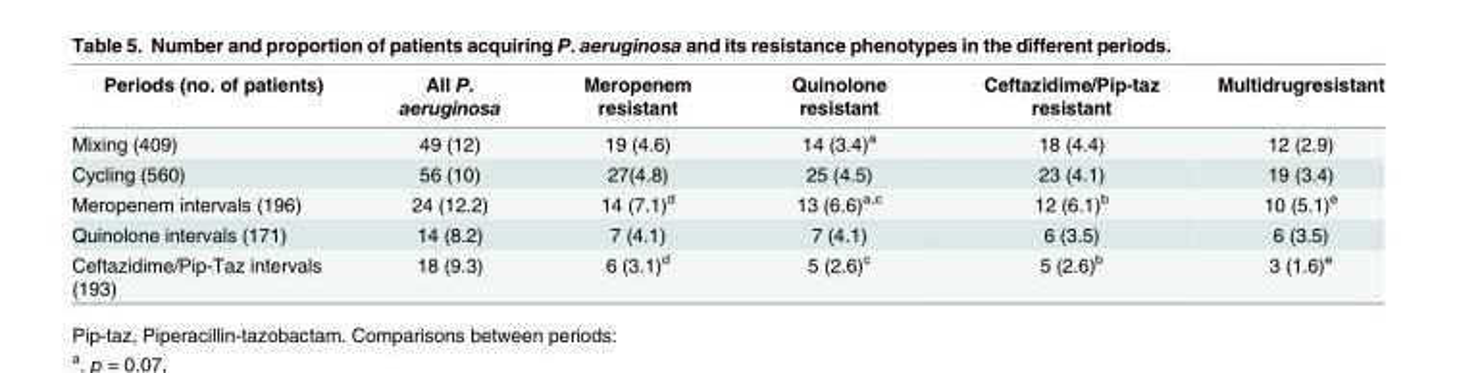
<table><thead><tr><td>Periods (no. of patients)</td><td>All P. aeruginosa</td><td>Meropenem resistant</td><td>Quinolone resistant</td><td>Ceftazidime/Pip-taz resistant</td><td>Multidrugresistant</td></tr></thead><tbody><tr><td>Mixing (409)</td><td>49 (12)</td><td>19 (4.6)</td><td>14 (3.4)<sup>a</sup></td><td>18 (4.4)</td><td>12 (2.9)</td></tr><tr><td>Cycling (560)</td><td>56 (10)</td><td>27(4.8)</td><td>25 (4.5)</td><td>23 (4.1)</td><td>19 (3.4)</td></tr><tr><td>Meropenem intervals (196)</td><td>24 (12.2)</td><td>14 (7.1)<sup>d</sup></td><td>13 (6.6)<sup>a,c</sup></td><td>12 (6.1)<sup>b</sup></td><td>10 (5.1)<sup>e</sup></td></tr><tr><td>Quinolone intervals (171)</td><td>14 (8.2)</td><td>7 (4.1)</td><td>7 (4.1)</td><td>6 (3.5)</td><td>6 (3.5)</td></tr><tr><td>Ceftazidime/Pip-Taz intervals (193)</td><td>18 (9.3)</td><td>6 (3.1)<sup>d</sup></td><td>5 (2.6)<sup>c</sup></td><td>5 (2.6)<sup>b</sup></td><td>3 (1.6)<sup>e</sup></td></tr></tbody></table>